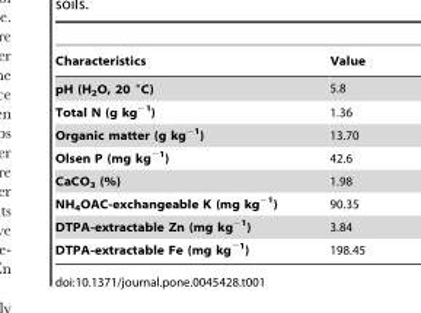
<table><thead><tr><td>Characteristics</td><td>Value</td></tr></thead><tbody><tr><td>pH (H<sub>2</sub>O, 20 °C)</td><td>5.8</td></tr><tr><td>Total N (g kg<sup>−1</sup>)</td><td>1.36</td></tr><tr><td>Organic matter (g kg<sup>−1</sup>)</td><td>13.70</td></tr><tr><td>Olsen P (mg kg<sup>−1</sup>)</td><td>42.6</td></tr><tr><td>CaCO<sub>3</sub> (%)</td><td>1.98</td></tr><tr><td>NH<sub>4</sub>OAC-exchangeable K (mg kg<sup>−1</sup>)</td><td>90.35</td></tr><tr><td>DTPA-extractable Zn (mg kg<sup>−1</sup>)</td><td>3.84</td></tr><tr><td>DTPA-extractable Fe (mg kg<sup>−1</sup>)</td><td>198.45</td></tr></tbody></table>